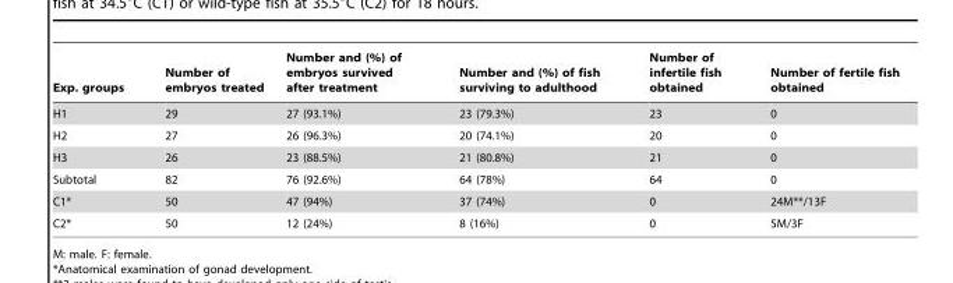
<table><thead><tr><td>Exp. groups</td><td>Number of embryos treated</td><td>Number and (%) of embryos survived after treatment</td><td>Number and (%) of fish surviving to adulthood</td><td>Number of infertile fish obtained</td><td>Number of fertile fish obtained</td></tr></thead><tbody><tr><td>H1</td><td>29</td><td>27 (93.1%)</td><td>23 (79.3%)</td><td>23</td><td>0</td></tr><tr><td>H2</td><td>27</td><td>26 (96.3%)</td><td>20 (74.1%)</td><td>20</td><td>0</td></tr><tr><td>H3</td><td>26</td><td>23 (88.5%)</td><td>21 (80.8%)</td><td>21</td><td>0</td></tr><tr><td>Subtotal</td><td>82</td><td>76 (92.6%)</td><td>64 (78%)</td><td>64</td><td>0</td></tr><tr><td>C1*</td><td>50</td><td>47 (94%)</td><td>37 (74%)</td><td>0</td><td>24M**/13F</td></tr><tr><td>C2*</td><td>50</td><td>12 (24%)</td><td>8 (16%)</td><td>0</td><td>5M/3F</td></tr></tbody></table>